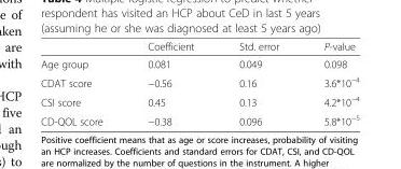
<table><thead><tr><td></td><td>Coefficient</td><td>Std. error</td><td>P-value</td></tr></thead><tbody><tr><td>Age group</td><td>0.081</td><td>0.049</td><td>0.098</td></tr><tr><td>CDAT score</td><td>−0.56</td><td>0.16</td><td>3.6*10<sup>−4</sup></td></tr><tr><td>CSI score</td><td>0.45</td><td>0.13</td><td>4.2*10<sup>−4</sup></td></tr><tr><td>CD-QOL score</td><td>−0.38</td><td>0.096</td><td>5.8*10<sup>−5</sup></td></tr></tbody></table>